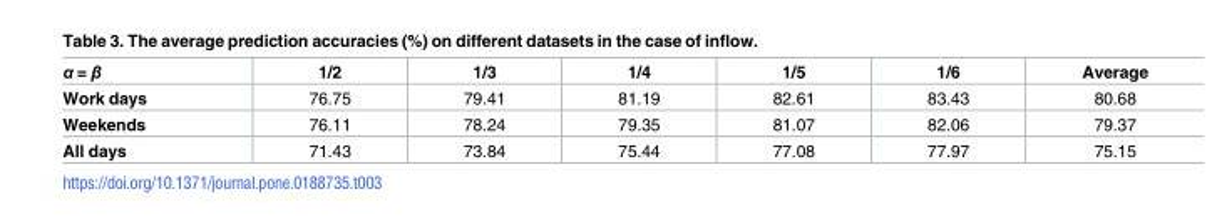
<table><thead><tr><td>α = β</td><td>1/2</td><td>1/3</td><td>1/4</td><td>1/5</td><td>1/6</td><td>Average</td></tr></thead><tbody><tr><td>Work days</td><td>76.75</td><td>79.41</td><td>81.19</td><td>82.61</td><td>83.43</td><td>80.68</td></tr><tr><td>Weekends</td><td>76.11</td><td>78.24</td><td>79.35</td><td>81.07</td><td>82.06</td><td>79.37</td></tr><tr><td>All days</td><td>71.43</td><td>73.84</td><td>75.44</td><td>77.08</td><td>77.97</td><td>75.15</td></tr></tbody></table>